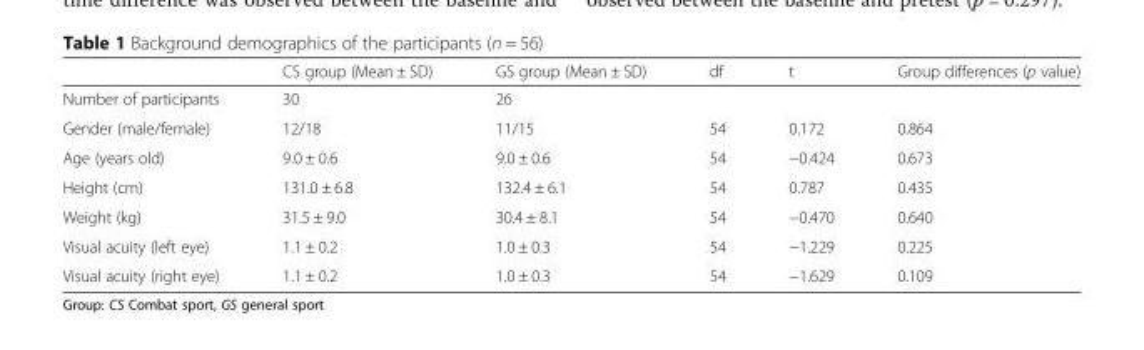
<table><thead><tr><td></td><td>CS group (Mean ± SD)</td><td>GS group (Mean ± SD)</td><td>df</td><td>t</td><td>Group differences (p value)</td></tr></thead><tbody><tr><td>Number of participants</td><td>30</td><td>26</td><td></td><td></td><td></td></tr><tr><td>Gender (male/female)</td><td>12/18</td><td>11/15</td><td>54</td><td>0.172</td><td>0.864</td></tr><tr><td>Age (years old)</td><td>9.0 ± 0.6</td><td>9.0 ± 0.6</td><td>54</td><td>−0.424</td><td>0.673</td></tr><tr><td>Height (cm)</td><td>131.0 ± 6.8</td><td>132.4 ± 6.1</td><td>54</td><td>0.787</td><td>0.435</td></tr><tr><td>Weight (kg)</td><td>31.5 ± 9.0</td><td>30.4 ± 8.1</td><td>54</td><td>−0.470</td><td>0.640</td></tr><tr><td>Visual acuity (left eye)</td><td>1.1 ± 0.2</td><td>1.0 ± 0.3</td><td>54</td><td>−1.229</td><td>0.225</td></tr><tr><td>Visual acuity (right eye)</td><td>1.1 ± 0.2</td><td>1.0 ± 0.3</td><td>54</td><td>−1.629</td><td>0.109</td></tr></tbody></table>